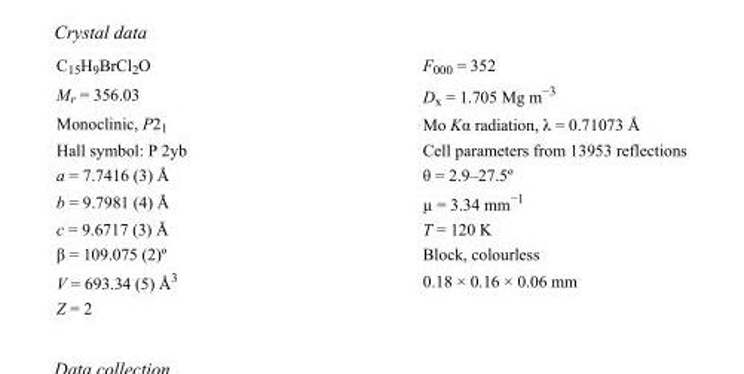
<table><tbody><tr><td>C<sub>15</sub>H<sub>9</sub>BrCl<sub>2</sub>O</td><td>F000 = 352</td></tr><tr><td>M<sub>r</sub> = 356.03</td><td>D<sub>x</sub> = 1.705 Mg m<sup>−3</sup></td></tr><tr><td>Monoclinic, P2<sub>1</sub></td><td>Mo Kα radiation, λ = 0.71073 Å</td></tr><tr><td>Hall symbol: P 2yb</td><td>Cell parameters from 13953 reflections</td></tr><tr><td>a = 7.7416 (3) Å</td><td>θ = 2.9–27.5º</td></tr><tr><td>b = 9.7981 (4) Å</td><td>µ = 3.34 mm<sup>−1</sup></td></tr><tr><td>c = 9.6717 (3) Å</td><td>T = 120 K</td></tr><tr><td>β = 109.075 (2)º</td><td>Block, colourless</td></tr><tr><td>V = 693.34 (5) Å<sup>3</sup></td><td>0.18 × 0.16 × 0.06 mm</td></tr><tr><td>Z = 2</td><td></td></tr></tbody></table>